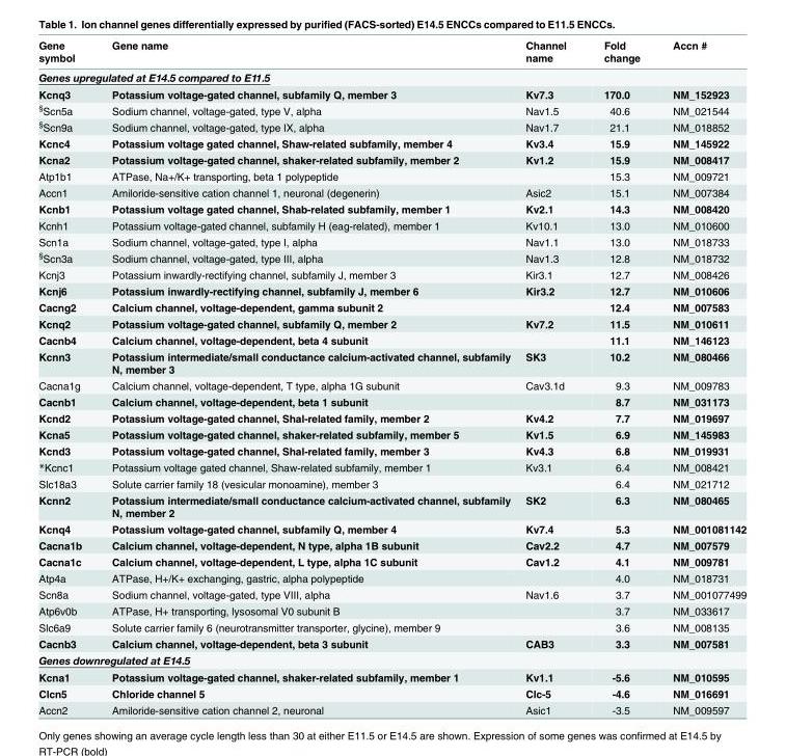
<table><thead><tr><td>Gene symbol</td><td>Gene name</td><td>Channel name</td><td>Fold change</td><td>Accn #</td></tr></thead><tbody><tr><td colspan="5">Genes upregulated at E14.5 compared to E11.5</td></tr><tr><td>Kcnq3</td><td>Potassium voltage-gated channel, subfamily Q, member 3</td><td>Kv7.3</td><td>170.0</td><td>NM_152923</td></tr><tr><td><sup>§</sup>Scn5a</td><td>Sodium channel, voltage-gated, type V, alpha</td><td>Nav1.5</td><td>40.6</td><td>NM_021544</td></tr><tr><td><sup>§</sup>Scn9a</td><td>Sodium channel, voltage-gated, type IX, alpha</td><td>Nav1.7</td><td>21.1</td><td>NM_018852</td></tr><tr><td>Kcnc4</td><td>Potassium voltage gated channel, Shaw-related subfamily, member 4</td><td>Kv3.4</td><td>15.9</td><td>NM_145922</td></tr><tr><td>Kcna2</td><td>Potassium voltage-gated channel, shaker-related subfamily, member 2</td><td>Kv1.2</td><td>15.9</td><td>NM_008417</td></tr><tr><td>Atp1b1</td><td>ATPase, Na+/K+ transporting, beta 1 polypeptide</td><td></td><td>15.3</td><td>NM_009721</td></tr><tr><td>Accn1</td><td>Amiloride-sensitive cation channel 1, neuronal (degenerin)</td><td>Asic2</td><td>15.1</td><td>NM_007384</td></tr><tr><td>Kcnb1</td><td>Potassium voltage gated channel, Shab-related subfamily, member 1</td><td>Kv2.1</td><td>14.3</td><td>NM_008420</td></tr><tr><td>Kcnh1</td><td>Potassium voltage-gated channel, subfamily H (eag-related), member 1</td><td>Kv10.1</td><td>13.0</td><td>NM_010600</td></tr><tr><td>Scn1a</td><td>Sodium channel, voltage-gated, type I, alpha</td><td>Nav1.1</td><td>13.0</td><td>NM_018733</td></tr><tr><td><sup>§</sup>Scn3a</td><td>Sodium channel, voltage-gated, type III, alpha</td><td>Nav1.3</td><td>12.8</td><td>NM_018732</td></tr><tr><td>Kcnj3</td><td>Potassium inwardly-rectifying channel, subfamily J, member 3</td><td>Kir3.1</td><td>12.7</td><td>NM_008426</td></tr><tr><td>Kcnj6</td><td>Potassium inwardly-rectifying channel, subfamily J, member 6</td><td>Kir3.2</td><td>12.7</td><td>NM_010606</td></tr><tr><td>Cacng2</td><td>Calcium channel, voltage-dependent, gamma subunit 2</td><td></td><td>12.4</td><td>NM_007583</td></tr><tr><td>Kcnq2</td><td>Potassium voltage-gated channel, subfamily Q, member 2</td><td>Kv7.2</td><td>11.5</td><td>NM_010611</td></tr><tr><td>Cacnb4</td><td>Calcium channel, voltage-dependent, beta 4 subunit</td><td></td><td>11.1</td><td>NM_146123</td></tr><tr><td>Kcnn3</td><td>Potassium intermediate/small conductance calcium-activated channel, subfamily N, member 3</td><td>SK3</td><td>10.2</td><td>NM_080466</td></tr><tr><td>Cacna1g</td><td>Calcium channel, voltage-dependent, T type, alpha 1G subunit</td><td>Cav3.1d</td><td>9.3</td><td>NM_009783</td></tr><tr><td>Cacnb1</td><td>Calcium channel, voltage-dependent, beta 1 subunit</td><td></td><td>8.7</td><td>NM_031173</td></tr><tr><td>Kcnd2</td><td>Potassium voltage-gated channel, Shal-related family, member 2</td><td>Kv4.2</td><td>7.7</td><td>NM_019697</td></tr><tr><td>Kcna5</td><td>Potassium voltage-gated channel, shaker-related subfamily, member 5</td><td>Kv1.5</td><td>6.9</td><td>NM_145983</td></tr><tr><td>Kcnd3</td><td>Potassium voltage-gated channel, Shal-related family, member 3</td><td>Kv4.3</td><td>6.8</td><td>NM_019931</td></tr><tr><td>*Kcnc1</td><td>Potassium voltage gated channel, Shaw-related subfamily, member 1</td><td>Kv3.1</td><td>6.4</td><td>NM_008421</td></tr><tr><td>Slc18a3</td><td>Solute carrier family 18 (vesicular monoamine), member 3</td><td></td><td>6.4</td><td>NM_021712</td></tr><tr><td>Kcnn2</td><td>Potassium intermediate/small conductance calcium-activated channel, subfamily N, member 2</td><td>SK2</td><td>6.3</td><td>NM_080465</td></tr><tr><td>Kcnq4</td><td>Potassium voltage-gated channel, subfamily Q, member 4</td><td>Kv7.4</td><td>5.3</td><td>NM_001081142</td></tr><tr><td>Cacna1b</td><td>Calcium channel, voltage-dependent, N type, alpha 1B subunit</td><td>Cav2.2</td><td>4.7</td><td>NM_007579</td></tr><tr><td>Cacna1c</td><td>Calcium channel, voltage-dependent, L type, alpha 1C subunit</td><td>Cav1.2</td><td>4.1</td><td>NM_009781</td></tr><tr><td>Atp4a</td><td>ATPase, H+/K+ exchanging, gastric, alpha polypeptide</td><td></td><td>4.0</td><td>NM_018731</td></tr><tr><td>Scn8a</td><td>Sodium channel, voltage-gated, type VIII, alpha</td><td>Nav1.6</td><td>3.7</td><td>NM_001077499</td></tr><tr><td>Atp6v0b</td><td>ATPase, H+ transporting, lysosomal V0 subunit B</td><td></td><td>3.7</td><td>NM_033617</td></tr><tr><td>Slc6a9</td><td>Solute carrier family 6 (neurotransmitter transporter, glycine), member 9</td><td></td><td>3.6</td><td>NM_008135</td></tr><tr><td>Cacnb3</td><td>Calcium channel, voltage-dependent, beta 3 subunit</td><td>CAB3</td><td>3.3</td><td>NM_007581</td></tr><tr><td colspan="5">Genes downregulated at E14.5</td></tr><tr><td>Kcna1</td><td>Potassium voltage-gated channel, shaker-related subfamily, member 1</td><td>Kv1.1</td><td>-5.6</td><td>NM_010595</td></tr><tr><td>Clcn5</td><td>Chloride channel 5</td><td>Clc-5</td><td>-4.6</td><td>NM_016691</td></tr><tr><td>Accn2</td><td>Amiloride-sensitive cation channel 2, neuronal</td><td>Asic1</td><td>-3.5</td><td>NM_009597</td></tr></tbody></table>